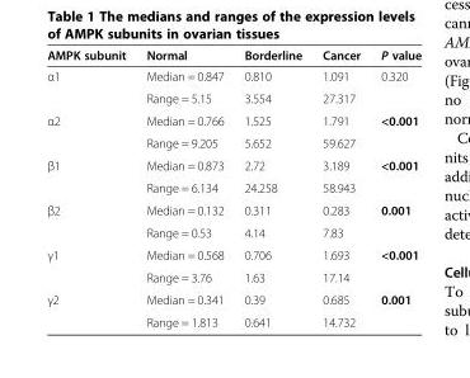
<table><thead><tr><td>AMPK subunit</td><td>Normal</td><td>Borderline</td><td>Cancer</td><td>P value</td></tr></thead><tbody><tr><td rowspan="2">α1</td><td>Median = 0.847</td><td>0.810</td><td>1.091</td><td>0.320</td></tr><tr><td>Range = 5.15</td><td>3.554</td><td>27.317</td><td></td></tr><tr><td rowspan="2">α2</td><td>Median = 0.766</td><td>1.525</td><td>1.791</td><td>&lt;0.001</td></tr><tr><td>Range = 9.205</td><td>5.652</td><td>59.627</td><td></td></tr><tr><td rowspan="2">β1</td><td>Median = 0.873</td><td>2.72</td><td>3.189</td><td>&lt;0.001</td></tr><tr><td>Range = 6.134</td><td>24.258</td><td>58.943</td><td></td></tr><tr><td rowspan="2">β2</td><td>Median = 0.132</td><td>0.311</td><td>0.283</td><td>0.001</td></tr><tr><td>Range = 0.53</td><td>4.14</td><td>7.83</td><td></td></tr><tr><td rowspan="2">γ1</td><td>Median = 0.568</td><td>0.706</td><td>1.693</td><td>&lt;0.001</td></tr><tr><td>Range = 3.76</td><td>1.63</td><td>17.14</td><td></td></tr><tr><td rowspan="2">γ2</td><td>Median = 0.341</td><td>0.39</td><td>0.685</td><td>0.001</td></tr><tr><td>Range = 1.813</td><td>0.641</td><td>14.732</td><td></td></tr></tbody></table>